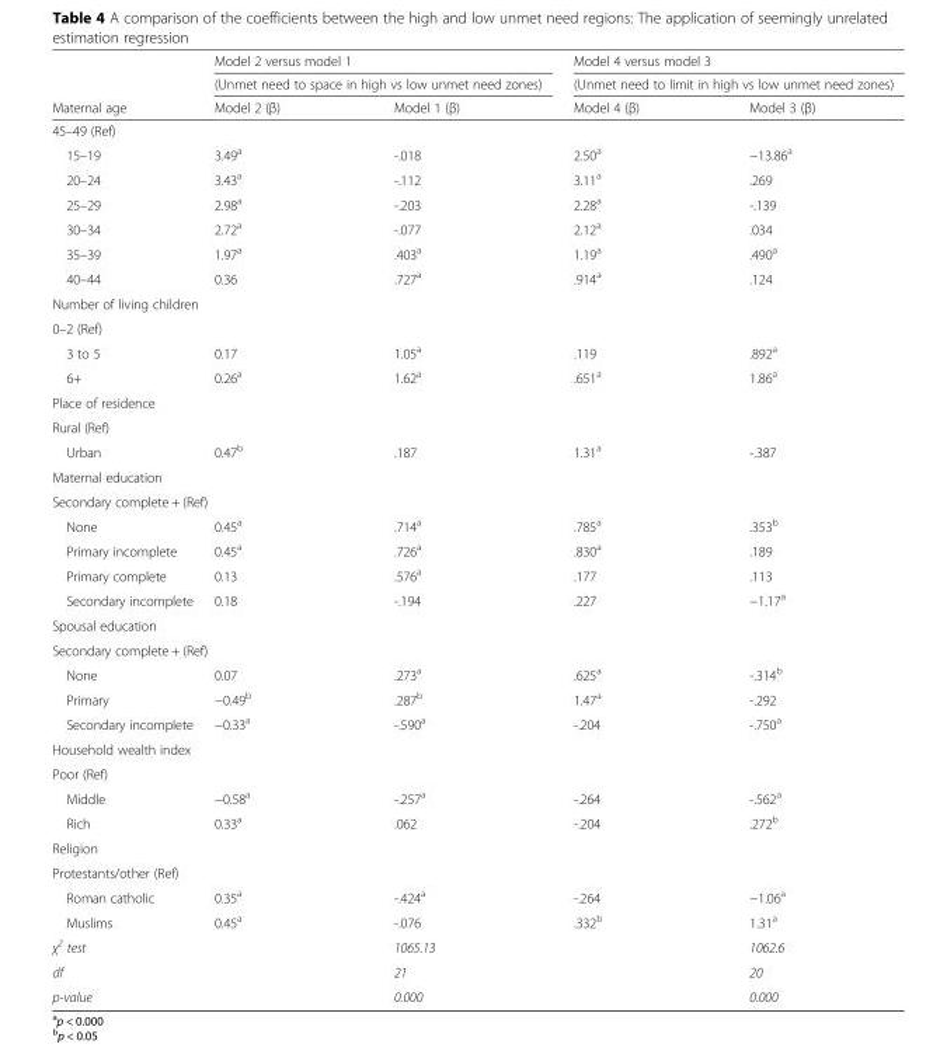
<table><thead><tr><td rowspan="3">Maternal age</td><td rowspan="2" colspan="2">Model 2 versus model 1 (Unmet need to space in high vs low unmet need zones)</td><td rowspan="2" colspan="2">Model 4 versus model 3 (Unmet need to limit in high vs low unmet need zones)</td></tr><tr></tr><tr><td>Model 2 (β)</td><td>Model 1 (β)</td><td>Model 4 (β)</td><td>Model 3 (β)</td></tr></thead><tbody><tr><td colspan="5">45–49 (Ref)</td></tr><tr><td>15–19</td><td>3.49<sup>a</sup></td><td>-.018</td><td>2.50<sup>a</sup></td><td>−13.86<sup>a</sup></td></tr><tr><td>20–24</td><td>3.43<sup>a</sup></td><td>-.112</td><td>3.11<sup>a</sup></td><td>.269</td></tr><tr><td>25–29</td><td>2.98<sup>a</sup></td><td>-.203</td><td>2.28<sup>a</sup></td><td>-.139</td></tr><tr><td>30–34</td><td>2.72<sup>a</sup></td><td>-.077</td><td>2.12<sup>a</sup></td><td>.034</td></tr><tr><td>35–39</td><td>1.97<sup>a</sup></td><td>.403<sup>a</sup></td><td>1.19<sup>a</sup></td><td>.490<sup>a</sup></td></tr><tr><td>40–44</td><td>0.36</td><td>.727<sup>a</sup></td><td>.914<sup>a</sup></td><td>.124</td></tr><tr><td colspan="5">Number of living children</td></tr><tr><td colspan="5">0–2 (Ref)</td></tr><tr><td>3 to 5</td><td>0.17</td><td>1.05<sup>a</sup></td><td>.119</td><td>.892<sup>a</sup></td></tr><tr><td>6+</td><td>0.26<sup>a</sup></td><td>1.62<sup>a</sup></td><td>.651<sup>a</sup></td><td>1.86<sup>a</sup></td></tr><tr><td colspan="5">Place of residence</td></tr><tr><td colspan="5">Rural (Ref)</td></tr><tr><td>Urban</td><td>0.47<sup>b</sup></td><td>.187</td><td>1.31<sup>a</sup></td><td>-.387</td></tr><tr><td colspan="5">Maternal education</td></tr><tr><td colspan="5">Secondary complete + (Ref)</td></tr><tr><td>None</td><td>0.45<sup>a</sup></td><td>.714<sup>a</sup></td><td>.785<sup>a</sup></td><td>.353<sup>b</sup></td></tr><tr><td>Primary incomplete</td><td>0.45<sup>a</sup></td><td>.726<sup>a</sup></td><td>.830<sup>a</sup></td><td>.189</td></tr><tr><td>Primary complete</td><td>0.13</td><td>.576<sup>a</sup></td><td>.177</td><td>.113</td></tr><tr><td>Secondary incomplete</td><td>0.18</td><td>-.194</td><td>.227</td><td>−1.17<sup>a</sup></td></tr><tr><td colspan="5">Spousal education</td></tr><tr><td colspan="5">Secondary complete + (Ref)</td></tr><tr><td>None</td><td>0.07</td><td>.273<sup>a</sup></td><td>.625<sup>a</sup></td><td>-.314<sup>b</sup></td></tr><tr><td>Primary</td><td>−0.49<sup>b</sup></td><td>.287<sup>b</sup></td><td>1.47<sup>a</sup></td><td>-.292</td></tr><tr><td>Secondary incomplete</td><td>−0.33<sup>a</sup></td><td>-.590<sup>a</sup></td><td>-.204</td><td>-.750<sup>a</sup></td></tr><tr><td colspan="5">Household wealth index</td></tr><tr><td colspan="5">Poor (Ref)</td></tr><tr><td>Middle</td><td>−0.58<sup>a</sup></td><td>-.257<sup>a</sup></td><td>-.264</td><td>-.562<sup>a</sup></td></tr><tr><td>Rich</td><td>0.33<sup>a</sup></td><td>.062</td><td>-.204</td><td>.272<sup>b</sup></td></tr><tr><td colspan="5">Religion</td></tr><tr><td colspan="5">Protestants/other (Ref)</td></tr><tr><td>Roman catholic</td><td>0.35<sup>a</sup></td><td>-.424<sup>a</sup></td><td>-.264</td><td>−1.06<sup>a</sup></td></tr><tr><td>Muslims</td><td>0.45<sup>a</sup></td><td>-.076</td><td>.332<sup>b</sup></td><td>1.31<sup>a</sup></td></tr><tr><td>χ<sup>2</sup> test</td><td></td><td>1065.13</td><td></td><td>1062.6</td></tr><tr><td>df</td><td></td><td>21</td><td></td><td>20</td></tr><tr><td>p-value</td><td></td><td>0.000</td><td></td><td>0.000</td></tr></tbody></table>